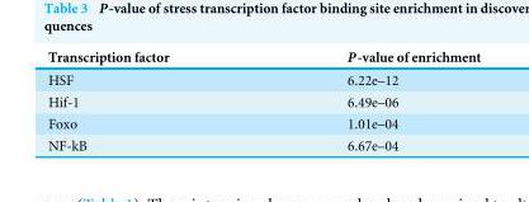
<table><thead><tr><td>Transcription factor</td><td>P-value of enrichment</td></tr></thead><tbody><tr><td>HSF</td><td>6.22e–12</td></tr><tr><td>Hif-1</td><td>6.49e–06</td></tr><tr><td>Foxo</td><td>1.01e–04</td></tr><tr><td>NF-kB</td><td>6.67e–04</td></tr></tbody></table>